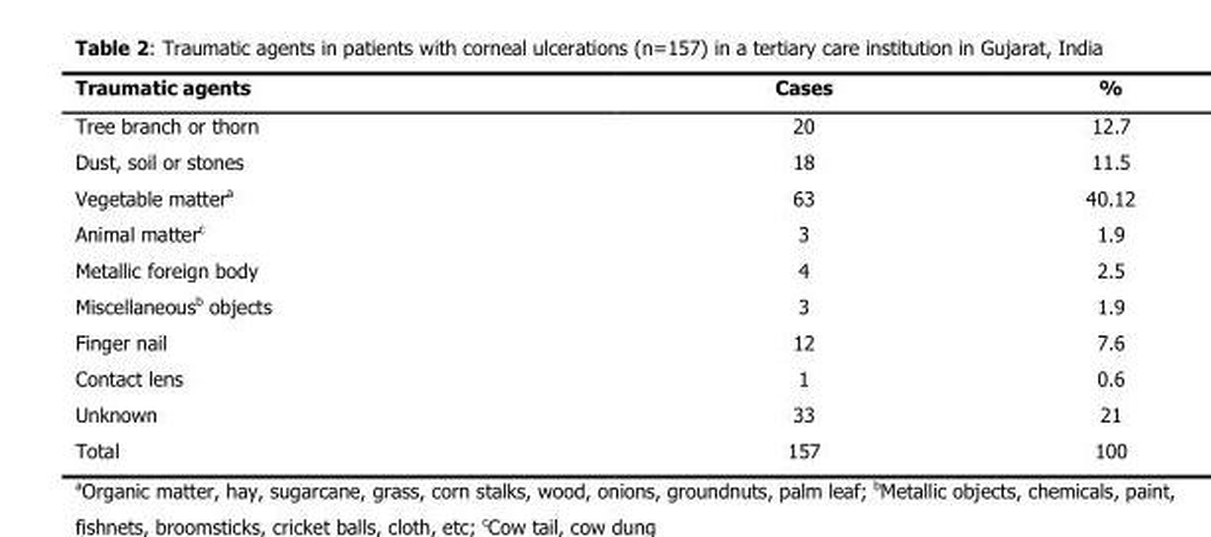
<table><thead><tr><td>Traumatic agents</td><td>Cases</td><td>%</td></tr></thead><tbody><tr><td>Tree branch or thorn</td><td>20</td><td>12.7</td></tr><tr><td>Dust, soil or stones</td><td>18</td><td>11.5</td></tr><tr><td>Vegetable matter<sup>a</sup></td><td>63</td><td>40.12</td></tr><tr><td>Animal matter<sup>c</sup></td><td>3</td><td>1.9</td></tr><tr><td>Metallic foreign body</td><td>4</td><td>2.5</td></tr><tr><td>Miscellaneous<sup>b</sup> objects</td><td>3</td><td>1.9</td></tr><tr><td>Finger nail</td><td>12</td><td>7.6</td></tr><tr><td>Contact lens</td><td>1</td><td>0.6</td></tr><tr><td>Unknown</td><td>33</td><td>21</td></tr><tr><td>Total</td><td>157</td><td>100</td></tr></tbody></table>